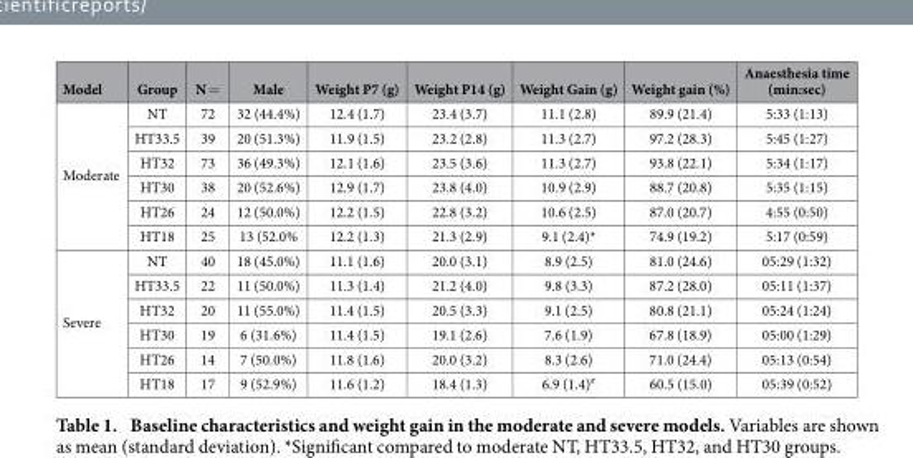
<table><thead><tr><td>Model</td><td>Group</td><td>N =</td><td>Male</td><td>Weight P7 (g)</td><td>Weight P14 (g)</td><td>Weight Gain (g)</td><td>Weight gain (%)</td><td>Anaesthesia time (min:sec)</td></tr></thead><tbody><tr><td rowspan="6">Moderate</td><td>NT</td><td>72</td><td>32 (44.4%)</td><td>12.4 (1.7)</td><td>23.4 (3.7)</td><td>11.1 (2.8)</td><td>89.9 (21.4)</td><td>5:33 (1:13)</td></tr><tr><td>HT33.5</td><td>39</td><td>20 (51.3%)</td><td>11.9 (1.5)</td><td>23.2 (2.8)</td><td>11.3 (2.7)</td><td>97.2 (28.3)</td><td>5:45 (1:27)</td></tr><tr><td>HT32</td><td>73</td><td>36 (49.3%)</td><td>12.1 (1.6)</td><td>23.5 (3.6)</td><td>11.3 (2.7)</td><td>93.8 (22.1)</td><td>5:34 (1:17)</td></tr><tr><td>HT30</td><td>38</td><td>20 (52.6%)</td><td>12.9 (1.7)</td><td>23.8 (4.0)</td><td>10.9 (2.9)</td><td>88.7 (20.8)</td><td>5:35 (1:15)</td></tr><tr><td>HT26</td><td>24</td><td>12 (50.0%)</td><td>12.2 (1.5)</td><td>22.8 (3.2)</td><td>10.6 (2.5)</td><td>87.0 (20.7)</td><td>4:55 (0:50)</td></tr><tr><td>HT18</td><td>25</td><td>13 (52.0%</td><td>12.2 (1.3)</td><td>21.3 (2.9)</td><td>9.1 (2.4)*</td><td>74.9 (19.2)</td><td>5:17 (0:59)</td></tr><tr><td rowspan="6">Severe</td><td>NT</td><td>40</td><td>18 (45.0%)</td><td>11.1 (1.6)</td><td>20.0 (3.1)</td><td>8.9 (2.5)</td><td>81.0 (24.6)</td><td>05:29 (1:32)</td></tr><tr><td>HT33.5</td><td>22</td><td>11 (50.0%)</td><td>11.3 (1.4)</td><td>21.2 (4.0)</td><td>9.8 (3.3)</td><td>87.2 (28.0)</td><td>05:11 (1:37)</td></tr><tr><td>HT32</td><td>20</td><td>11 (55.0%)</td><td>11.4 (1.5)</td><td>20.5 (3.3)</td><td>9.1 (2.5)</td><td>80.8 (21.1)</td><td>05:24 (1:24)</td></tr><tr><td>HT30</td><td>19</td><td>6 (31.6%)</td><td>11.4 (1.5)</td><td>19.1 (2.6)</td><td>7.6 (1.9)</td><td>67.8 (18.9)</td><td>05:00 (1:29)</td></tr><tr><td>HT26</td><td>14</td><td>7 (50.0%)</td><td>11.8 (1.6)</td><td>20.0 (3.2)</td><td>8.3 (2.6)</td><td>71.0 (24.4)</td><td>05:13 (0:54)</td></tr><tr><td>HT18</td><td>17</td><td>9 (52.9%)</td><td>11.6 (1.2)</td><td>18.4 (1.3)</td><td>6.9 (1.4)<sup>#</sup></td><td>60.5 (15.0)</td><td>05:39 (0:52)</td></tr></tbody></table>